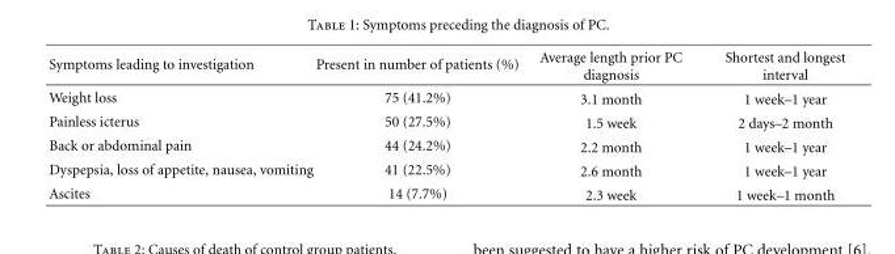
<table><thead><tr><td>Symptoms leading to investigation</td><td>Present in number of patients (%)</td><td>Average length prior PC diagnosis</td><td>Shortest and longest interval</td></tr></thead><tbody><tr><td>Weight loss</td><td>75 (41.2%)</td><td>3.1 month</td><td>1 week–1 year</td></tr><tr><td>Painless icterus</td><td>50 (27.5%)</td><td>1.5 week</td><td>2 days–2 month</td></tr><tr><td>Back or abdominal pain</td><td>44 (24.2%)</td><td>2.2 month</td><td>1 week–1 year</td></tr><tr><td>Dyspepsia, loss of appetite, nausea, vomiting</td><td>41 (22.5%)</td><td>2.6 month</td><td>1 week–1 year</td></tr><tr><td>Ascites</td><td>14 (7.7%)</td><td>2.3 week</td><td>1 week–1 month</td></tr></tbody></table>